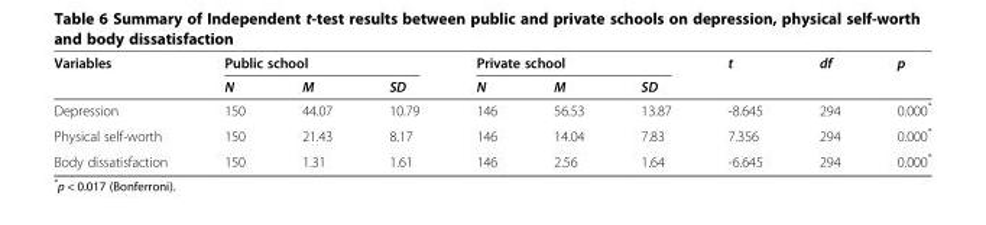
<table><thead><tr><td rowspan="2">Variables</td><td colspan="3">Public school</td><td colspan="3">Private school</td><td rowspan="2">t</td><td rowspan="2">df</td><td rowspan="2">p</td></tr><tr><td>N</td><td>M</td><td>SD</td><td>N</td><td>M</td><td>SD</td></tr></thead><tbody><tr><td>Depression</td><td>150</td><td>44.07</td><td>10.79</td><td>146</td><td>56.53</td><td>13.87</td><td>-8.645</td><td>294</td><td>0.000*</td></tr><tr><td>Physical self-worth</td><td>150</td><td>21.43</td><td>8.17</td><td>146</td><td>14.04</td><td>7.83</td><td>7.356</td><td>294</td><td>0.000*</td></tr><tr><td>Body dissatisfaction</td><td>150</td><td>1.31</td><td>1.61</td><td>146</td><td>2.56</td><td>1.64</td><td>-6.645</td><td>294</td><td>0.000*</td></tr></tbody></table>